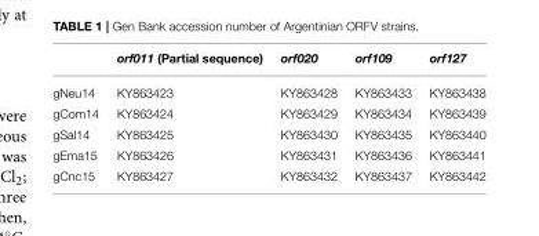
<table><thead><tr><td></td><td>orf011 (Partial sequence)</td><td>orf020</td><td>orf109</td><td>orf127</td></tr></thead><tbody><tr><td>gNeu14</td><td>KY863423</td><td>KY863428</td><td>KY863433</td><td>KY863438</td></tr><tr><td>gCom14</td><td>KY863424</td><td>KY863429</td><td>KY863434</td><td>KY863439</td></tr><tr><td>gSal14</td><td>KY863425</td><td>KY863430</td><td>KY863435</td><td>KY863440</td></tr><tr><td>gEma15</td><td>KY863426</td><td>KY863431</td><td>KY863436</td><td>KY863441</td></tr><tr><td>gCnc15</td><td>KY863427</td><td>KY863432</td><td>KY863437</td><td>KY863442</td></tr></tbody></table>